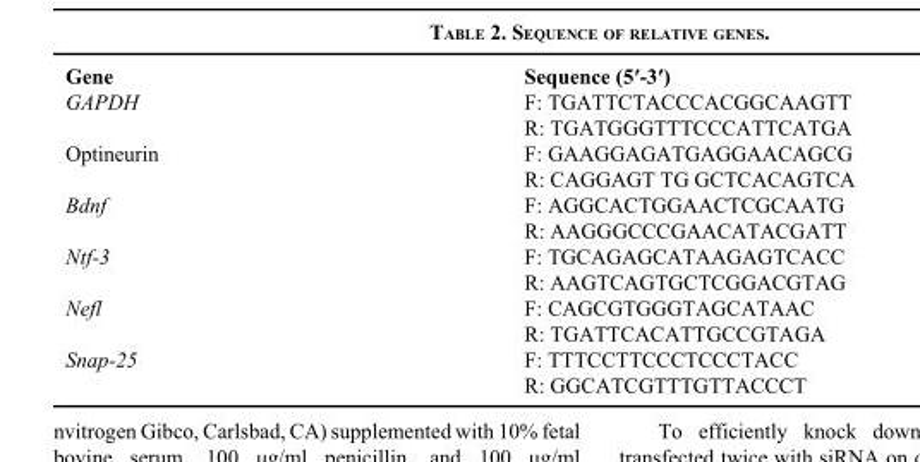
<table><thead><tr><td>Gene</td><td>Sequence (5′-3′)</td></tr></thead><tbody><tr><td rowspan="2">GAPDH</td><td>F: TGATTCTACCCACGGCAAGTT</td></tr><tr><td>R: TGATGGGTTTCCCATTCATGA</td></tr><tr><td rowspan="2">Optineurin</td><td>F: GAAGGAGATGAGGAACAGCG</td></tr><tr><td>R: CAGGAGT TG GCTCACAGTCA</td></tr><tr><td rowspan="2">Bdnf</td><td>F: AGGCACTGGAACTCGCAATG</td></tr><tr><td>R: AAGGGCCCGAACATACGATT</td></tr><tr><td rowspan="2">Ntf-3</td><td>F: TGCAGAGCATAAGAGTCACC</td></tr><tr><td>R: AAGTCAGTGCTCGGACGTAG</td></tr><tr><td rowspan="2">Nefl</td><td>F: CAGCGTGGGTAGCATAAC</td></tr><tr><td>R: TGATTCACATTGCCGTAGA</td></tr><tr><td rowspan="2">Snap-25</td><td>F: TTTCCTTCCCTCCCTACC</td></tr><tr><td>R: GGCATCGTTTGTTACCCT</td></tr></tbody></table>